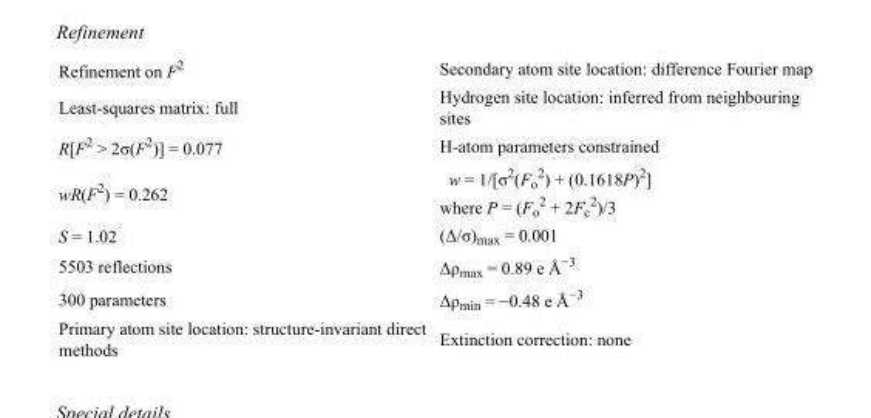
<table><tbody><tr><td>Refinement on F<sup>2</sup></td><td>Secondary atom site location: difference Fourier map</td></tr><tr><td>Least-squares matrix: full</td><td>Hydrogen site location: inferred from neighbouring sites</td></tr><tr><td>R[F<sup>2</sup> &gt; 2σ(F<sup>2</sup>)] = 0.077</td><td>H-atom parameters constrained</td></tr><tr><td>wR(F<sup>2</sup>) = 0.262</td><td>w = 1/[σ<sup>2</sup>(F<sub>o</sub> <sup>2</sup>) + (0.1618P)<sup>2</sup>] where P = (F<sub>o</sub> <sup>2</sup> + 2F<sub>c</sub> <sup>2</sup>)/3</td></tr><tr><td>S = 1.02</td><td>(Δ/σ)<sub>max</sub> = 0.001</td></tr><tr><td>5503 reflections</td><td>Δρ<sub>max</sub> = 0.89 e Å<sup>−3</sup></td></tr><tr><td>300 parameters</td><td>Δρ<sub>min</sub> = −0.48 e Å<sup>−3</sup></td></tr><tr><td>Primary atom site location: structure-invariant direct methods</td><td>Extinction correction: none</td></tr></tbody></table>